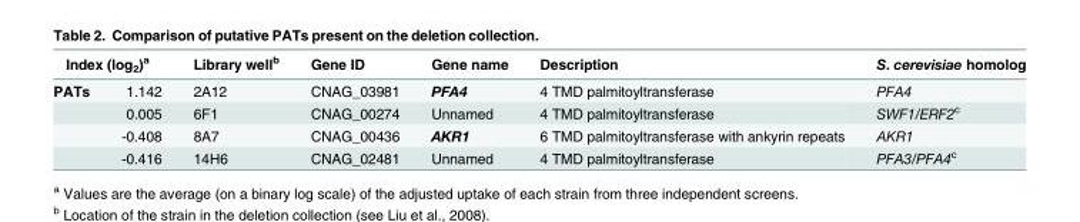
<table><thead><tr><td colspan="2">Index (log<sub>2</sub>)<sup>a</sup></td><td rowspan="2">Library well<sup>b</sup> 2A12</td><td rowspan="2">Gene ID CNAG_03981</td><td rowspan="2">Gene name PFA4</td><td rowspan="2">Description 4 TMD palmitoyltransferase</td><td rowspan="2">S. cerevisiae homolog PFA4</td></tr><tr><td>PATs</td><td>1.142</td></tr></thead><tbody><tr><td></td><td>0.005</td><td>6F1</td><td>CNAG_00274</td><td>Unnamed</td><td>4 TMD palmitoyltransferase</td><td>SWF1/ERF2<sup>c</sup></td></tr><tr><td></td><td>-0.408</td><td>8A7</td><td>CNAG_00436</td><td>AKR1</td><td>6 TMD palmitoyltransferase with ankyrin repeats</td><td>AKR1</td></tr><tr><td></td><td>-0.416</td><td>14H6</td><td>CNAG_02481</td><td>Unnamed</td><td>4 TMD palmitoyltransferase</td><td>PFA3/PFA4<sup>c</sup></td></tr></tbody></table>